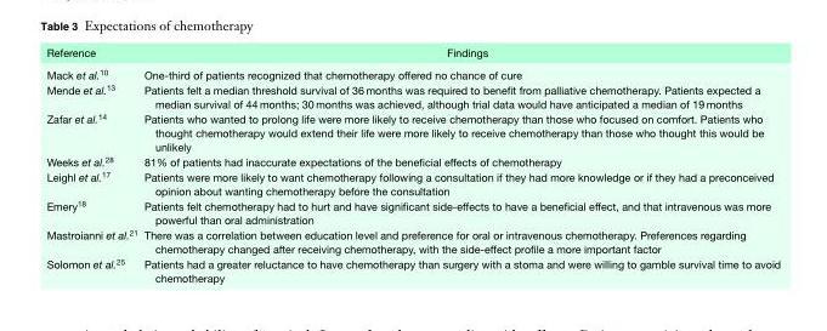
<table><thead><tr><td>Reference</td><td>Findings</td></tr></thead><tbody><tr><td>Mack et al.<sup>10</sup></td><td>One-third of patients recognized that chemotherapy offered no chance of cure</td></tr><tr><td>Mende et al.<sup>13</sup></td><td>Patients felt a median threshold survival of 36 months was required to benefit from palliative chemotherapy. Patients expected a median survival of 44 months; 30 months was achieved, although trial data would have anticipated a median of 19 months</td></tr><tr><td>Zafar et al.<sup>14</sup></td><td>Patients who wanted to prolong life were more likely to receive chemotherapy than those who focused on comfort. Patients who thought chemotherapy would extend their life were more likely to receive chemotherapy than those who thought this would be unlikely</td></tr><tr><td>Weeks et al.<sup>28</sup></td><td>81% of patients had inaccurate expectations of the beneficial effects of chemotherapy</td></tr><tr><td>Leighl et al.<sup>17</sup></td><td>Patients were more likely to want chemotherapy following a consultation if they had more knowledge or if they had a preconceived opinion about wanting chemotherapy before the consultation</td></tr><tr><td>Emery<sup>18</sup></td><td>Patients felt chemotherapy had to hurt and have significant side-effects to have a beneficial effect, and that intravenous was more powerful than oral administration</td></tr><tr><td>Mastroianni et al.<sup>21</sup></td><td>There was a correlation between education level and preference for oral or intravenous chemotherapy. Preferences regarding chemotherapy changed after receiving chemotherapy, with the side-effect profile a more important factor</td></tr><tr><td>Solomon et al.<sup>25</sup></td><td>Patients had a greater reluctance to have chemotherapy than surgery with a stoma and were willing to gamble survival time to avoid chemotherapy</td></tr></tbody></table>